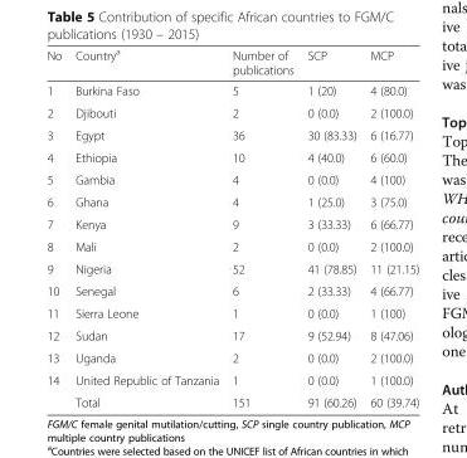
<table><thead><tr><td>No</td><td>Country<sup>a</sup></td><td>Number of publications</td><td>SCP</td><td>MCP</td></tr></thead><tbody><tr><td>1</td><td>Burkina Faso</td><td>5</td><td>1 (20)</td><td>4 (80.0)</td></tr><tr><td>2</td><td>Djibouti</td><td>2</td><td>0 (0.0)</td><td>2 (100.0)</td></tr><tr><td>3</td><td>Egypt</td><td>36</td><td>30 (83.33)</td><td>6 (16.77)</td></tr><tr><td>4</td><td>Ethiopia</td><td>10</td><td>4 (40.0)</td><td>6 (60.0)</td></tr><tr><td>5</td><td>Gambia</td><td>4</td><td>0 (0.0)</td><td>4 (100)</td></tr><tr><td>6</td><td>Ghana</td><td>4</td><td>1 (25.0)</td><td>3 (75.0)</td></tr><tr><td>7</td><td>Kenya</td><td>9</td><td>3 (33.33)</td><td>6 (66.77)</td></tr><tr><td>8</td><td>Mali</td><td>2</td><td>0 (0.0)</td><td>2 (100.0)</td></tr><tr><td>9</td><td>Nigeria</td><td>52</td><td>41 (78.85)</td><td>11 (21.15)</td></tr><tr><td>10</td><td>Senegal</td><td>6</td><td>2 (33.33)</td><td>4 (66.77)</td></tr><tr><td>11</td><td>Sierra Leone</td><td>1</td><td>0 (0.0)</td><td>1 (100)</td></tr><tr><td>12</td><td>Sudan</td><td>17</td><td>9 (52.94)</td><td>8 (47.06)</td></tr><tr><td>13</td><td>Uganda</td><td>2</td><td>0 (0.0)</td><td>2 (100.0)</td></tr><tr><td rowspan="2">14</td><td>United Republic of Tanzania</td><td>1</td><td>0 (0.0)</td><td>1 (100.0)</td></tr><tr><td>Total</td><td>151</td><td>91 (60.26)</td><td>60 (39.74)</td></tr></tbody></table>